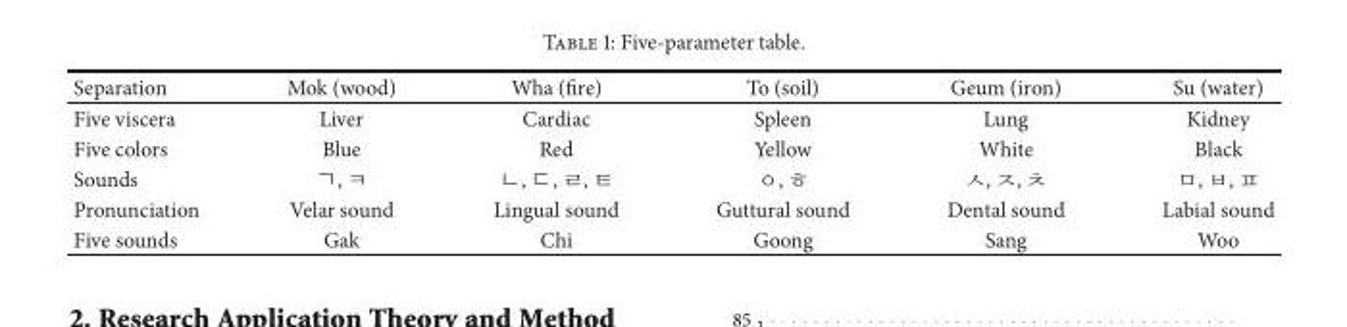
<table><thead><tr><td>Separation</td><td>Mok (wood)</td><td>Wha (fire)</td><td>To (soil)</td><td>Geum (iron)</td><td>Su (water)</td></tr></thead><tbody><tr><td>Five viscera</td><td>Liver</td><td>Cardiac</td><td>Spleen</td><td>Lung</td><td>Kidney</td></tr><tr><td>Five colors</td><td>Blue</td><td>Red</td><td>Yellow</td><td>White</td><td>Black</td></tr><tr><td>Sounds</td><td>ㄱ, ㅋ</td><td>ㄴ, ㄷ, ㄹ, ㅌ</td><td>ㅇ, ㅎ</td><td>ㅅ, ㅈ, ㅊ</td><td>ㅁ, ㅂ, ㅍ</td></tr><tr><td>Pronunciation</td><td>Velar sound</td><td>Lingual sound</td><td>Guttural sound</td><td>Dental sound</td><td>Labial sound</td></tr><tr><td>Five sounds</td><td>Gak</td><td>Chi</td><td>Goong</td><td>Sang</td><td>Woo</td></tr></tbody></table>